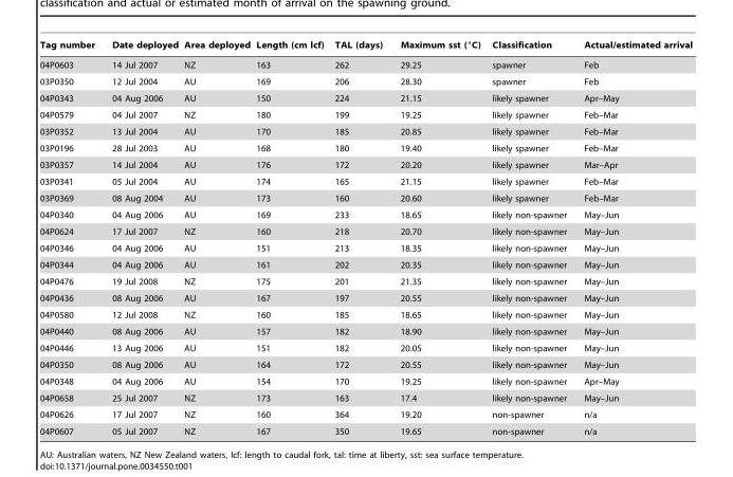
<table><thead><tr><td>Tag number</td><td>Date deployed</td><td>Area deployed</td><td>Length (cm lcf)</td><td>TAL (days)</td><td>Maximum sst (°C)</td><td>Classification</td><td>Actual/estimated arrival</td></tr></thead><tbody><tr><td>04P0603</td><td>14 Jul 2007</td><td>NZ</td><td>163</td><td>262</td><td>29.25</td><td>spawner</td><td>Feb</td></tr><tr><td>03P0350</td><td>12 Jul 2004</td><td>AU</td><td>169</td><td>206</td><td>28.30</td><td>spawner</td><td>Feb</td></tr><tr><td>04P0343</td><td>04 Aug 2006</td><td>AU</td><td>150</td><td>224</td><td>21.15</td><td>likely spawner</td><td>Apr–May</td></tr><tr><td>04P0579</td><td>04 Jul 2007</td><td>NZ</td><td>180</td><td>199</td><td>19.25</td><td>likely spawner</td><td>Feb–Mar</td></tr><tr><td>03P0352</td><td>13 Jul 2004</td><td>AU</td><td>170</td><td>185</td><td>20.85</td><td>likely spawner</td><td>Feb–Mar</td></tr><tr><td>03P0196</td><td>28 Jul 2003</td><td>AU</td><td>168</td><td>180</td><td>19.40</td><td>likely spawner</td><td>Feb–Mar</td></tr><tr><td>03P0357</td><td>14 Jul 2004</td><td>AU</td><td>176</td><td>172</td><td>20.20</td><td>likely spawner</td><td>Mar–Apr</td></tr><tr><td>03P0341</td><td>05 Jul 2004</td><td>AU</td><td>174</td><td>165</td><td>21.15</td><td>likely spawner</td><td>Feb–Mar</td></tr><tr><td>03P0369</td><td>08 Aug 2004</td><td>AU</td><td>173</td><td>160</td><td>20.60</td><td>likely spawner</td><td>Feb–Mar</td></tr><tr><td>04P0340</td><td>04 Aug 2006</td><td>AU</td><td>169</td><td>233</td><td>18.65</td><td>likely non-spawner</td><td>May–Jun</td></tr><tr><td>04P0624</td><td>17 Jul 2007</td><td>NZ</td><td>160</td><td>218</td><td>20.70</td><td>likely non-spawner</td><td>May–Jun</td></tr><tr><td>04P0346</td><td>04 Aug 2006</td><td>AU</td><td>151</td><td>213</td><td>18.35</td><td>likely non-spawner</td><td>May–Jun</td></tr><tr><td>04P0344</td><td>04 Aug 2006</td><td>AU</td><td>161</td><td>202</td><td>20.35</td><td>likely non-spawner</td><td>May–Jun</td></tr><tr><td>04P0476</td><td>19 Jul 2008</td><td>NZ</td><td>175</td><td>201</td><td>21.35</td><td>likely non-spawner</td><td>May–Jun</td></tr><tr><td>04P0436</td><td>08 Aug 2006</td><td>AU</td><td>167</td><td>197</td><td>20.55</td><td>likely non-spawner</td><td>May–Jun</td></tr><tr><td>04P0580</td><td>12 Jul 2008</td><td>NZ</td><td>160</td><td>185</td><td>18.65</td><td>likely non-spawner</td><td>May–Jun</td></tr><tr><td>04P0440</td><td>08 Aug 2006</td><td>AU</td><td>157</td><td>182</td><td>18.90</td><td>likely non-spawner</td><td>May–Jun</td></tr><tr><td>04P0446</td><td>13 Aug 2006</td><td>AU</td><td>151</td><td>182</td><td>20.05</td><td>likely non-spawner</td><td>May–Jun</td></tr><tr><td>04P0350</td><td>08 Aug 2006</td><td>AU</td><td>164</td><td>172</td><td>20.55</td><td>likely non-spawner</td><td>May–Jun</td></tr><tr><td>04P0348</td><td>04 Aug 2006</td><td>AU</td><td>154</td><td>170</td><td>19.25</td><td>likely non-spawner</td><td>Apr–May</td></tr><tr><td>04P0658</td><td>25 Jul 2007</td><td>NZ</td><td>173</td><td>163</td><td>17.4</td><td>likely non-spawner</td><td>May–Jun</td></tr><tr><td>04P0626</td><td>17 Jul 2007</td><td>NZ</td><td>160</td><td>364</td><td>19.20</td><td>non-spawner</td><td>n/a</td></tr><tr><td>04P0607</td><td>05 Jul 2007</td><td>NZ</td><td>167</td><td>350</td><td>19.65</td><td>non-spawner</td><td>n/a</td></tr></tbody></table>